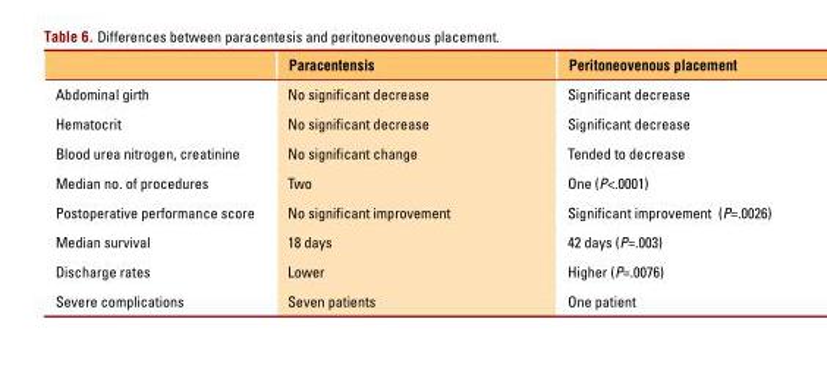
<table><thead><tr><td></td><td>Paracentensis</td><td>Peritoneovenous placement</td></tr></thead><tbody><tr><td>Abdominal girth</td><td>No significant decrease</td><td>Significant decrease</td></tr><tr><td>Hematocrit</td><td>No significant decrease</td><td>Significant decrease</td></tr><tr><td>Blood urea nitrogen, creatinine</td><td>No significant change</td><td>Tended to decrease</td></tr><tr><td>Median no. of procedures</td><td>Two</td><td>One (P&lt;.0001)</td></tr><tr><td>Postoperative performance score</td><td>No significant improvement</td><td>Significant improvement (P=.0026)</td></tr><tr><td>Median survival</td><td>18 days</td><td>42 days (P=.003)</td></tr><tr><td>Discharge rates</td><td>Lower</td><td>Higher (P=.0076)</td></tr><tr><td>Severe complications</td><td>Seven patients</td><td>One patient</td></tr></tbody></table>